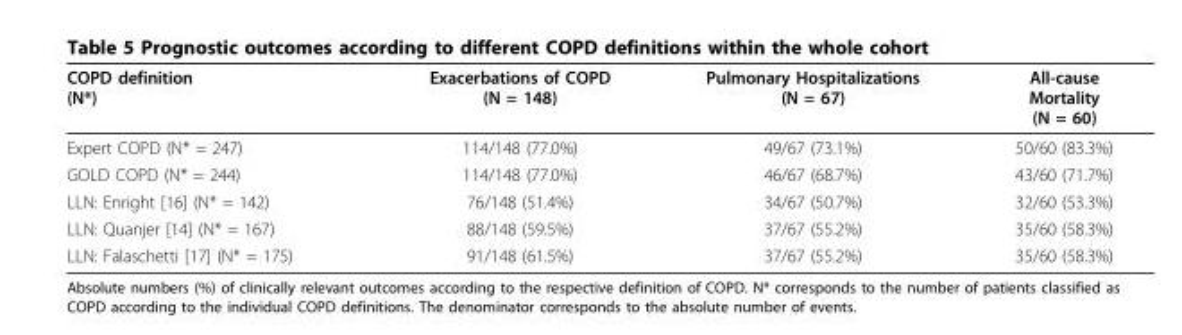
<table><thead><tr><td>COPD definition (N*)</td><td>Exacerbations of COPD (N = 148)</td><td>Pulmonary Hospitalizations (N = 67)</td><td>All-cause Mortality (N = 60)</td></tr></thead><tbody><tr><td>Expert COPD (N* = 247)</td><td>114/148 (77.0%)</td><td>49/67 (73.1%)</td><td>50/60 (83.3%)</td></tr><tr><td>GOLD COPD (N* = 244)</td><td>114/148 (77.0%)</td><td>46/67 (68.7%)</td><td>43/60 (71.7%)</td></tr><tr><td>LLN: Enright [16] (N* = 142)</td><td>76/148 (51.4%)</td><td>34/67 (50.7%)</td><td>32/60 (53.3%)</td></tr><tr><td>LLN: Quanjer [14] (N* = 167)</td><td>88/148 (59.5%)</td><td>37/67 (55.2%)</td><td>35/60 (58.3%)</td></tr><tr><td>LLN: Falaschetti [17] (N* = 175)</td><td>91/148 (61.5%)</td><td>37/67 (55.2%)</td><td>35/60 (58.3%)</td></tr></tbody></table>